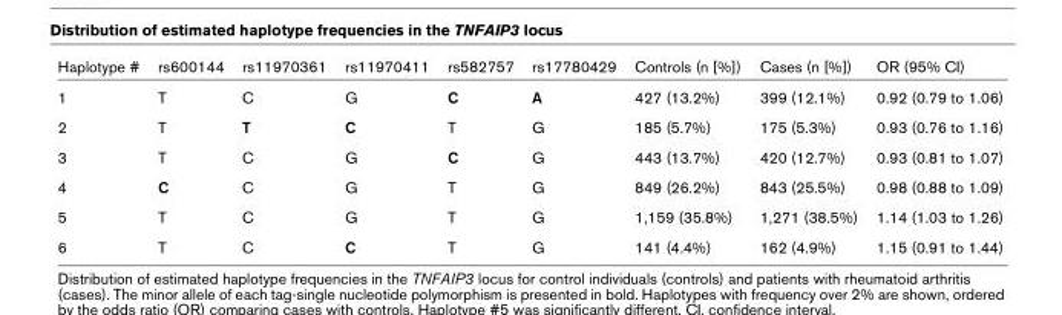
<table><thead><tr><td>Haplotype #</td><td>rs600144</td><td>rs11970361</td><td>rs11970411</td><td>rs582757</td><td>rs17780429</td><td>Controls (n [%])</td><td>Cases (n [%])</td><td>OR (95% CI)</td></tr></thead><tbody><tr><td>1</td><td>T</td><td>C</td><td>G</td><td>C</td><td>A</td><td>427 (13.2%)</td><td>399 (12.1%)</td><td>0.92 (0.79 to 1.06)</td></tr><tr><td>2</td><td>T</td><td>T</td><td>C</td><td>T</td><td>G</td><td>185 (5.7%)</td><td>175 (5.3%)</td><td>0.93 (0.76 to 1.16)</td></tr><tr><td>3</td><td>T</td><td>C</td><td>G</td><td>C</td><td>G</td><td>443 (13.7%)</td><td>420 (12.7%)</td><td>0.93 (0.81 to 1.07)</td></tr><tr><td>4</td><td>C</td><td>C</td><td>G</td><td>T</td><td>G</td><td>849 (26.2%)</td><td>843 (25.5%)</td><td>0.98 (0.88 to 1.09)</td></tr><tr><td>5</td><td>T</td><td>C</td><td>G</td><td>T</td><td>G</td><td>1,159 (35.8%)</td><td>1,271 (38.5%)</td><td>1.14 (1.03 to 1.26)</td></tr><tr><td>6</td><td>T</td><td>C</td><td>C</td><td>T</td><td>G</td><td>141 (4.4%)</td><td>162 (4.9%)</td><td>1.15 (0.91 to 1.44)</td></tr></tbody></table>